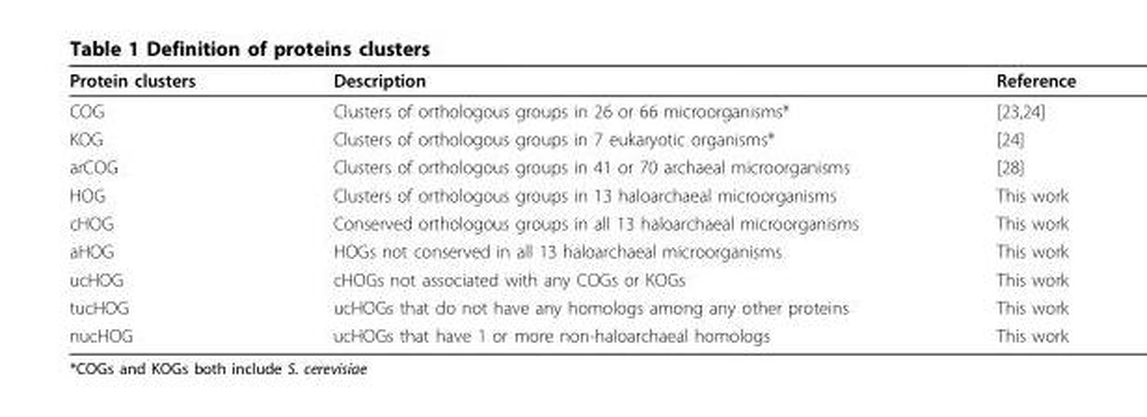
<table><thead><tr><td>Protein clusters</td><td>Description</td><td>Reference</td></tr></thead><tbody><tr><td>COG</td><td>Clusters of orthologous groups in 26 or 66 microorganisms*</td><td>[23,24]</td></tr><tr><td>KOG</td><td>Clusters of orthologous groups in 7 eukaryotic organisms*</td><td>[24]</td></tr><tr><td>arCOG</td><td>Clusters of orthologous groups in 41 or 70 archaeal microorganisms</td><td>[28]</td></tr><tr><td>HOG</td><td>Clusters of orthologous groups in 13 haloarchaeal microorganisms</td><td>This work</td></tr><tr><td>cHOG</td><td>Conserved orthologous groups in all 13 haloarchaeal microorganisms</td><td>This work</td></tr><tr><td>aHOG</td><td>HOGs not conserved in all 13 haloarchaeal microorganisms</td><td>This work</td></tr><tr><td>ucHOG</td><td>cHOGs not associated with any COGs or KOGs</td><td>This work</td></tr><tr><td>tucHOG</td><td>ucHOGs that do not have any homologs among any other proteins</td><td>This work</td></tr><tr><td>nucHOG</td><td>ucHOGs that have 1 or more non-haloarchaeal homologs</td><td>This work</td></tr></tbody></table>